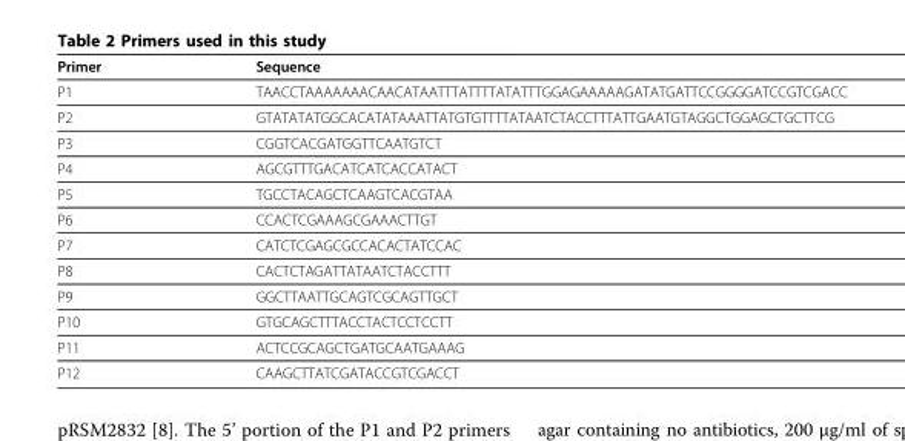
<table><thead><tr><td>Primer</td><td>Sequence</td></tr></thead><tbody><tr><td>P1</td><td>TAACCTAAAAAAACAACATAATTTATTTTATATTTGGAGAAAAAGATATGATTCCGGGGATCCGTCGACC</td></tr><tr><td>P2</td><td>GTATATATGGCACATATAAATTATGTGTTTTATAATCTACCTTTATTGAATGTAGGCTGGAGCTGCTTCG</td></tr><tr><td>P3</td><td>CGGTCACGATGGTTCAATGTCT</td></tr><tr><td>P4</td><td>AGCGTTTGACATCATCACCATACT</td></tr><tr><td>P5</td><td>TGCCTACAGCTCAAGTCACGTAA</td></tr><tr><td>P6</td><td>CCACTCGAAAGCGAAACTTGT</td></tr><tr><td>P7</td><td>CATCTCGAGCGCCACACTATCCAC</td></tr><tr><td>P8</td><td>CACTCTAGATTATAATCTACCTTT</td></tr><tr><td>P9</td><td>GGCTTAATTGCAGTCGCAGTTGCT</td></tr><tr><td>P10</td><td>GTGCAGCTTTACCTACTCCTCCTT</td></tr><tr><td>P11</td><td>ACTCCGCAGCTGATGCAATGAAAG</td></tr><tr><td>P12</td><td>CAAGCTTATCGATACCGTCGACCT</td></tr></tbody></table>